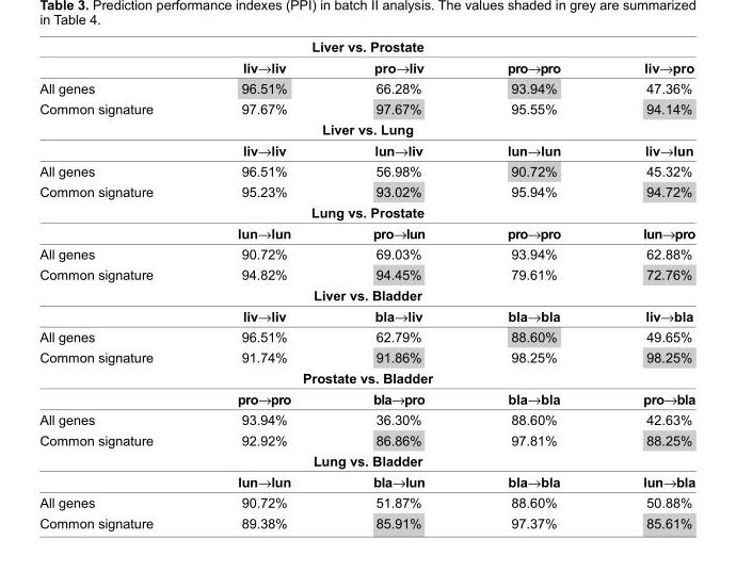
<table><tbody><tr><td colspan="5">Liver vs. Prostate</td></tr><tr><td></td><td>liv→liv</td><td>pro→liv</td><td>pro→pro</td><td>liv→pro</td></tr><tr><td>All genes</td><td>96.51%</td><td>66.28%</td><td>93.94%</td><td>47.36%</td></tr><tr><td>Common signature</td><td>97.67%</td><td>97.67%</td><td>95.55%</td><td>94.14%</td></tr><tr><td colspan="5">Liver vs. Lung</td></tr><tr><td></td><td>liv→liv</td><td>lun→liv</td><td>lun→lun</td><td>liv→lun</td></tr><tr><td>All genes</td><td>96.51%</td><td>56.98%</td><td>90.72%</td><td>45.32%</td></tr><tr><td>Common signature</td><td>95.23%</td><td>93.02%</td><td>95.94%</td><td>94.72%</td></tr><tr><td colspan="5">Lung vs. Prostate</td></tr><tr><td></td><td>lun→lun</td><td>pro→lun</td><td>pro→pro</td><td>lun→pro</td></tr><tr><td>All genes</td><td>90.72%</td><td>69.03%</td><td>93.94%</td><td>62.88%</td></tr><tr><td>Common signature</td><td>94.82%</td><td>94.45%</td><td>79.61%</td><td>72.76%</td></tr><tr><td colspan="5">Liver vs. Bladder</td></tr><tr><td></td><td>liv→liv</td><td>bla→liv</td><td>bla→bla</td><td>liv→bla</td></tr><tr><td>All genes</td><td>96.51%</td><td>62.79%</td><td>88.60%</td><td>49.65%</td></tr><tr><td>Common signature</td><td>91.74%</td><td>91.86%</td><td>98.25%</td><td>98.25%</td></tr><tr><td colspan="5">Prostate vs. Bladder</td></tr><tr><td></td><td>pro→pro</td><td>bla→pro</td><td>bla→bla</td><td>pro→bla</td></tr><tr><td>All genes</td><td>93.94%</td><td>36.30%</td><td>88.60%</td><td>42.63%</td></tr><tr><td>Common signature</td><td>92.92%</td><td>86.86%</td><td>97.81%</td><td>88.25%</td></tr><tr><td colspan="5">Lung vs. Bladder</td></tr><tr><td></td><td>lun→lun</td><td>bla→lun</td><td>bla→bla</td><td>lun→bla</td></tr><tr><td>All genes</td><td>90.72%</td><td>51.87%</td><td>88.60%</td><td>50.88%</td></tr><tr><td>Common signature</td><td>89.38%</td><td>85.91%</td><td>97.37%</td><td>85.61%</td></tr></tbody></table>